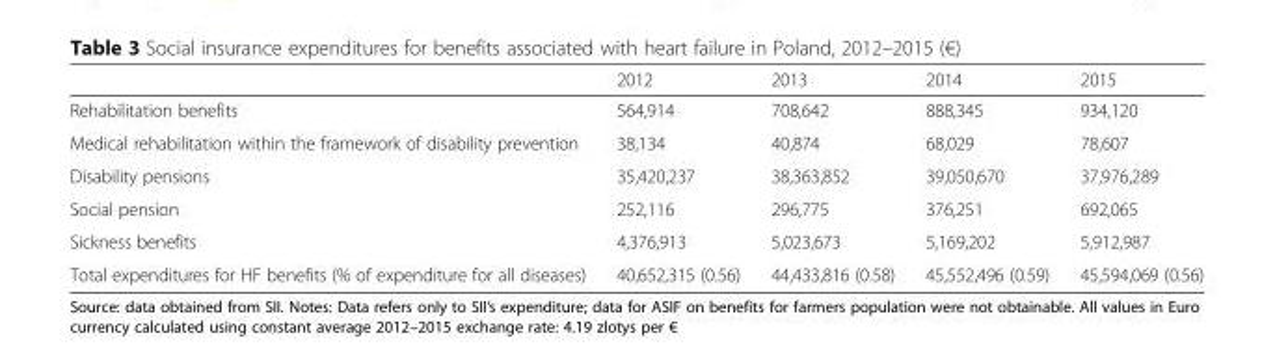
<table><thead><tr><td></td><td>2012</td><td>2013</td><td>2014</td><td>2015</td></tr></thead><tbody><tr><td>Rehabilitation benefits</td><td>564,914</td><td>708,642</td><td>888,345</td><td>934,120</td></tr><tr><td>Medical rehabilitation within the framework of disability prevention</td><td>38,134</td><td>40,874</td><td>68,029</td><td>78,607</td></tr><tr><td>Disability pensions</td><td>35,420,237</td><td>38,363,852</td><td>39,050,670</td><td>37,976,289</td></tr><tr><td>Social pension</td><td>252,116</td><td>296,775</td><td>376,251</td><td>692,065</td></tr><tr><td>Sickness benefits</td><td>4,376,913</td><td>5,023,673</td><td>5,169,202</td><td>5,912,987</td></tr><tr><td>Total expenditures for HF benefits (% of expenditure for all diseases)</td><td>40,652,315 (0.56)</td><td>44,433,816 (0.58)</td><td>45,552,496 (0.59)</td><td>45,594,069 (0.56)</td></tr></tbody></table>